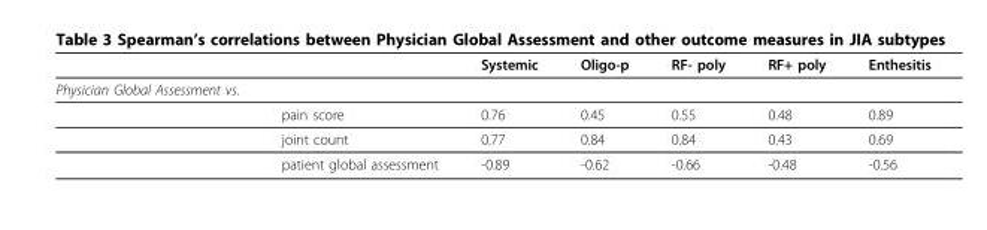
<table><thead><tr><td></td><td></td><td>Systemic</td><td>Oligo-p</td><td>RF- poly</td><td>RF+ poly</td><td>Enthesitis</td></tr></thead><tbody><tr><td colspan="7">Physician Global Assessment vs.</td></tr><tr><td></td><td>pain score</td><td>0.76</td><td>0.45</td><td>0.55</td><td>0.48</td><td>0.89</td></tr><tr><td></td><td>joint count</td><td>0.77</td><td>0.84</td><td>0.84</td><td>0.43</td><td>0.69</td></tr><tr><td></td><td>patient global assessment</td><td>-0.89</td><td>-0.62</td><td>-0.66</td><td>-0.48</td><td>-0.56</td></tr></tbody></table>